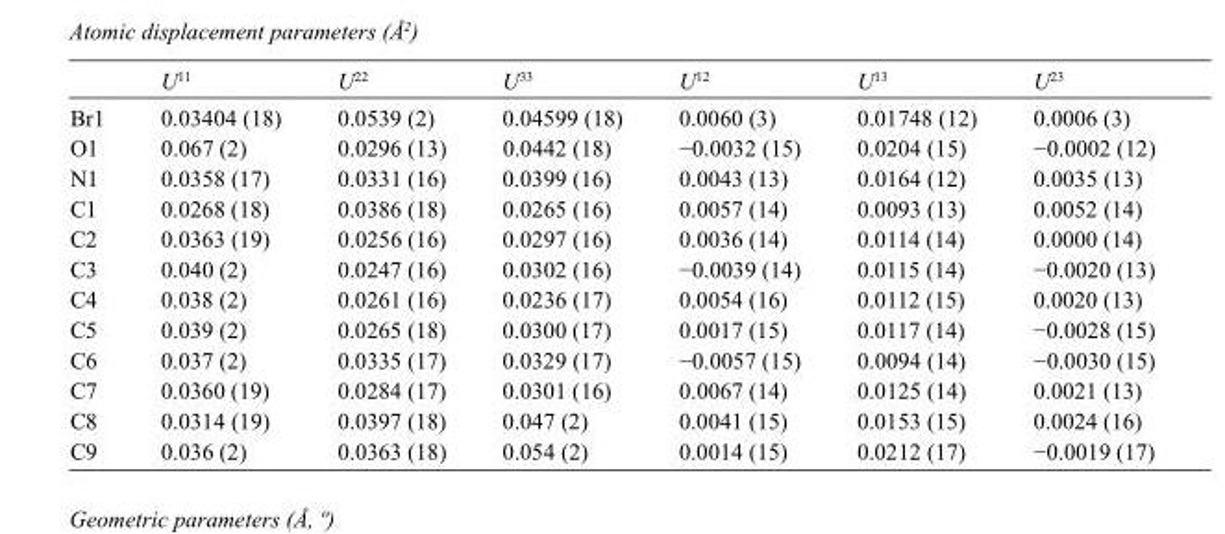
<table><thead><tr><td></td><td>U<sup>11</sup></td><td>U<sup>22</sup></td><td>U<sup>33</sup></td><td>U<sup>12</sup></td><td>U<sup>13</sup></td><td>U<sup>23</sup></td></tr></thead><tbody><tr><td>Br1</td><td>0.03404 (18)</td><td>0.0539 (2)</td><td>0.04599 (18)</td><td>0.0060 (3)</td><td>0.01748 (12)</td><td>0.0006 (3)</td></tr><tr><td>O1</td><td>0.067 (2)</td><td>0.0296 (13)</td><td>0.0442 (18)</td><td>−0.0032 (15)</td><td>0.0204 (15)</td><td>−0.0002 (12)</td></tr><tr><td>N1</td><td>0.0358 (17)</td><td>0.0331 (16)</td><td>0.0399 (16)</td><td>0.0043 (13)</td><td>0.0164 (12)</td><td>0.0035 (13)</td></tr><tr><td>C1</td><td>0.0268 (18)</td><td>0.0386 (18)</td><td>0.0265 (16)</td><td>0.0057 (14)</td><td>0.0093 (13)</td><td>0.0052 (14)</td></tr><tr><td>C2</td><td>0.0363 (19)</td><td>0.0256 (16)</td><td>0.0297 (16)</td><td>0.0036 (14)</td><td>0.0114 (14)</td><td>0.0000 (14)</td></tr><tr><td>C3</td><td>0.040 (2)</td><td>0.0247 (16)</td><td>0.0302 (16)</td><td>−0.0039 (14)</td><td>0.0115 (14)</td><td>−0.0020 (13)</td></tr><tr><td>C4</td><td>0.038 (2)</td><td>0.0261 (16)</td><td>0.0236 (17)</td><td>0.0054 (16)</td><td>0.0112 (15)</td><td>0.0020 (13)</td></tr><tr><td>C5</td><td>0.039 (2)</td><td>0.0265 (18)</td><td>0.0300 (17)</td><td>0.0017 (15)</td><td>0.0117 (14)</td><td>−0.0028 (15)</td></tr><tr><td>C6</td><td>0.037 (2)</td><td>0.0335 (17)</td><td>0.0329 (17)</td><td>−0.0057 (15)</td><td>0.0094 (14)</td><td>−0.0030 (15)</td></tr><tr><td>C7</td><td>0.0360 (19)</td><td>0.0284 (17)</td><td>0.0301 (16)</td><td>0.0067 (14)</td><td>0.0125 (14)</td><td>0.0021 (13)</td></tr><tr><td>C8</td><td>0.0314 (19)</td><td>0.0397 (18)</td><td>0.047 (2)</td><td>0.0041 (15)</td><td>0.0153 (15)</td><td>0.0024 (16)</td></tr><tr><td>C9</td><td>0.036 (2)</td><td>0.0363 (18)</td><td>0.054 (2)</td><td>0.0014 (15)</td><td>0.0212 (17)</td><td>−0.0019 (17)</td></tr></tbody></table>